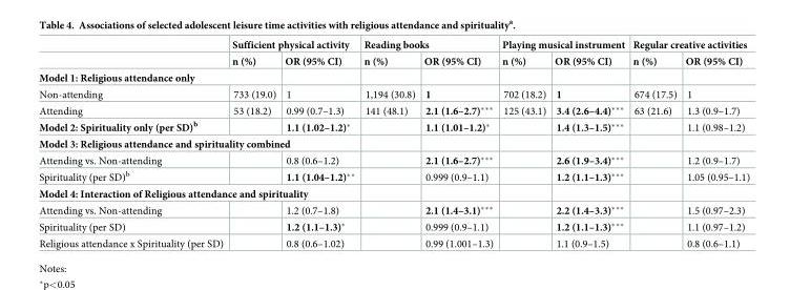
<table><thead><tr><td rowspan="2"></td><td colspan="2">Sufficient physical activity</td><td colspan="2">Reading books</td><td colspan="2">Playing musical instrument</td><td colspan="2">Regular creative activities</td></tr><tr><td>n (%)</td><td>OR (95% CI)</td><td>n (%)</td><td>OR (95% CI)</td><td>n (%)</td><td>OR (95% CI)</td><td>n (%)</td><td>OR (95% CI)</td></tr></thead><tbody><tr><td colspan="9">Model 1: Religious attendance only</td></tr><tr><td>Non-attending</td><td>733 (19.0)</td><td>1</td><td>1,194 (30.8)</td><td>1</td><td>702 (18.2)</td><td>1</td><td>674 (17.5)</td><td>1</td></tr><tr><td>Attending</td><td>53 (18.2)</td><td>0.99 (0.7–1.3)</td><td>141 (48.1)</td><td>2.1 (1.6–2.7)***</td><td>125 (43.1)</td><td>3.4 (2.6–4.4)***</td><td>63 (21.6)</td><td>1.3 (0.9–1.7)</td></tr><tr><td>Model 2: Spirituality only (per SD)<sup>b</sup></td><td></td><td>1.1 (1.02–1.2)*</td><td></td><td>1.1 (1.01–1.2)*</td><td></td><td>1.4 (1.3–1.5)***</td><td></td><td>1.1 (0.98–1.2)</td></tr><tr><td colspan="9">Model 3: Religious attendance and spirituality combined</td></tr><tr><td>Attending vs. Non-attending</td><td></td><td>0.8 (0.6–1.2)</td><td></td><td>2.1 (1.6–2.7)***</td><td></td><td>2.6 (1.9–3.4)***</td><td></td><td>1.2 (0.9–1.7)</td></tr><tr><td>Spirituality (per SD)<sup>b</sup></td><td></td><td>1.1 (1.04–1.2)**</td><td></td><td>0.999 (0.9–1.1)</td><td></td><td>1.2 (1.1–1.3)***</td><td></td><td>1.05 (0.95–1.1)</td></tr><tr><td colspan="9">Model 4: Interaction of Religious attendance and spirituality</td></tr><tr><td>Attending vs. Non-attending</td><td></td><td>1.2 (0.7–1.8)</td><td></td><td>2.1 (1.4–3.1)***</td><td></td><td>2.2 (1.4–3.3)***</td><td></td><td>1.5 (0.97–2.3)</td></tr><tr><td>Spirituality (per SD)</td><td></td><td>1.2 (1.1–1.3)*</td><td></td><td>0.999 (0.9–1.1)</td><td></td><td>1.2 (1.1–1.3)***</td><td></td><td>1.1 (0.97–1.2)</td></tr><tr><td>Religious attendance x Spirituality (per SD)</td><td></td><td>0.8 (0.6–1.02)</td><td></td><td>0.99 (1.001–1.3)</td><td></td><td>1.1 (0.9–1.5)</td><td></td><td>0.8 (0.6–1.1)</td></tr></tbody></table>